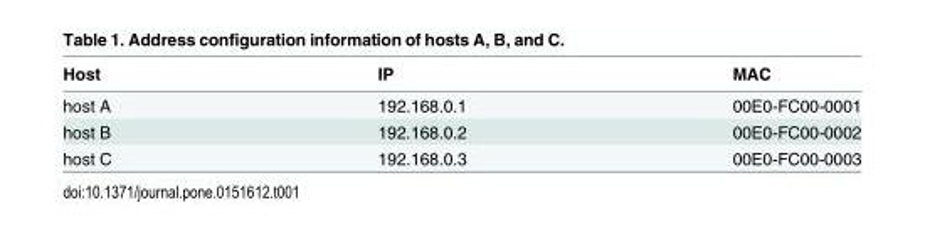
<table><thead><tr><td>Host</td><td>IP</td><td>MAC</td></tr></thead><tbody><tr><td>host A</td><td>192.168.0.1</td><td>00E0-FC00-0001</td></tr><tr><td>host B</td><td>192.168.0.2</td><td>00E0-FC00-0002</td></tr><tr><td>host C</td><td>192.168.0.3</td><td>00E0-FC00-0003</td></tr></tbody></table>